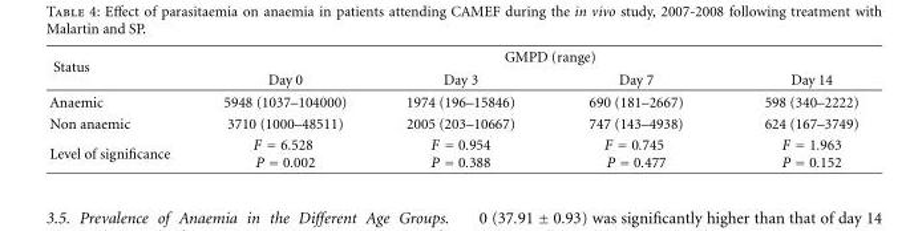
<table><thead><tr><td rowspan="2">Status</td><td colspan="4">GMPD (range)</td></tr><tr><td>Day 0</td><td>Day 3</td><td>Day 7</td><td>Day 14</td></tr></thead><tbody><tr><td>Anaemic</td><td>5948 (1037–104000)</td><td>1974 (196–15846)</td><td>690 (181–2667)</td><td>598 (340–2222)</td></tr><tr><td>Non anaemic</td><td>3710 (1000–48511)</td><td>2005 (203–10667)</td><td>747 (143–4938)</td><td>624 (167–3749)</td></tr><tr><td>Level of significance</td><td>F = 6.528 P = 0.002</td><td>F = 0.954 P = 0.388</td><td>F = 0.745 P = 0.477</td><td>F = 1.963 P = 0.152</td></tr></tbody></table>